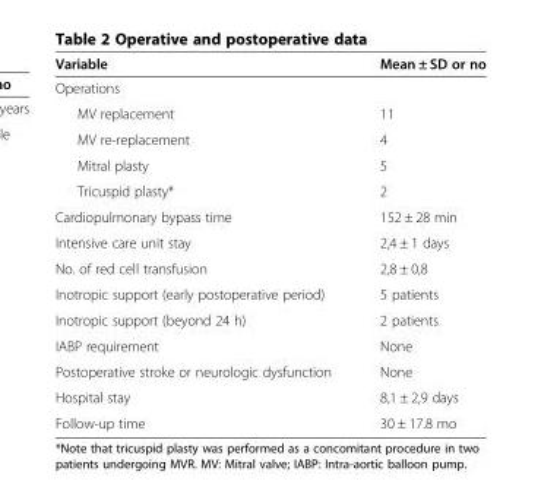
<table><thead><tr><td>Variable</td><td>Mean ± SD or no</td></tr></thead><tbody><tr><td colspan="2">Operations</td></tr><tr><td>MV replacement</td><td>11</td></tr><tr><td>MV re-replacement</td><td>4</td></tr><tr><td>Mitral plasty</td><td>5</td></tr><tr><td>Tricuspid plasty*</td><td>2</td></tr><tr><td>Cardiopulmonary bypass time</td><td>152 ± 28 min</td></tr><tr><td>Intensive care unit stay</td><td>2,4 ± 1 days</td></tr><tr><td>No. of red cell transfusion</td><td>2,8 ± 0,8</td></tr><tr><td>Inotropic support (early postoperative period)</td><td>5 patients</td></tr><tr><td>Inotropic support (beyond 24 h)</td><td>2 patients</td></tr><tr><td>IABP requirement</td><td>None</td></tr><tr><td>Postoperative stroke or neurologic dysfunction</td><td>None</td></tr><tr><td>Hospital stay</td><td>8,1 ± 2,9 days</td></tr><tr><td>Follow-up time</td><td>30 ± 17.8 mo</td></tr></tbody></table>